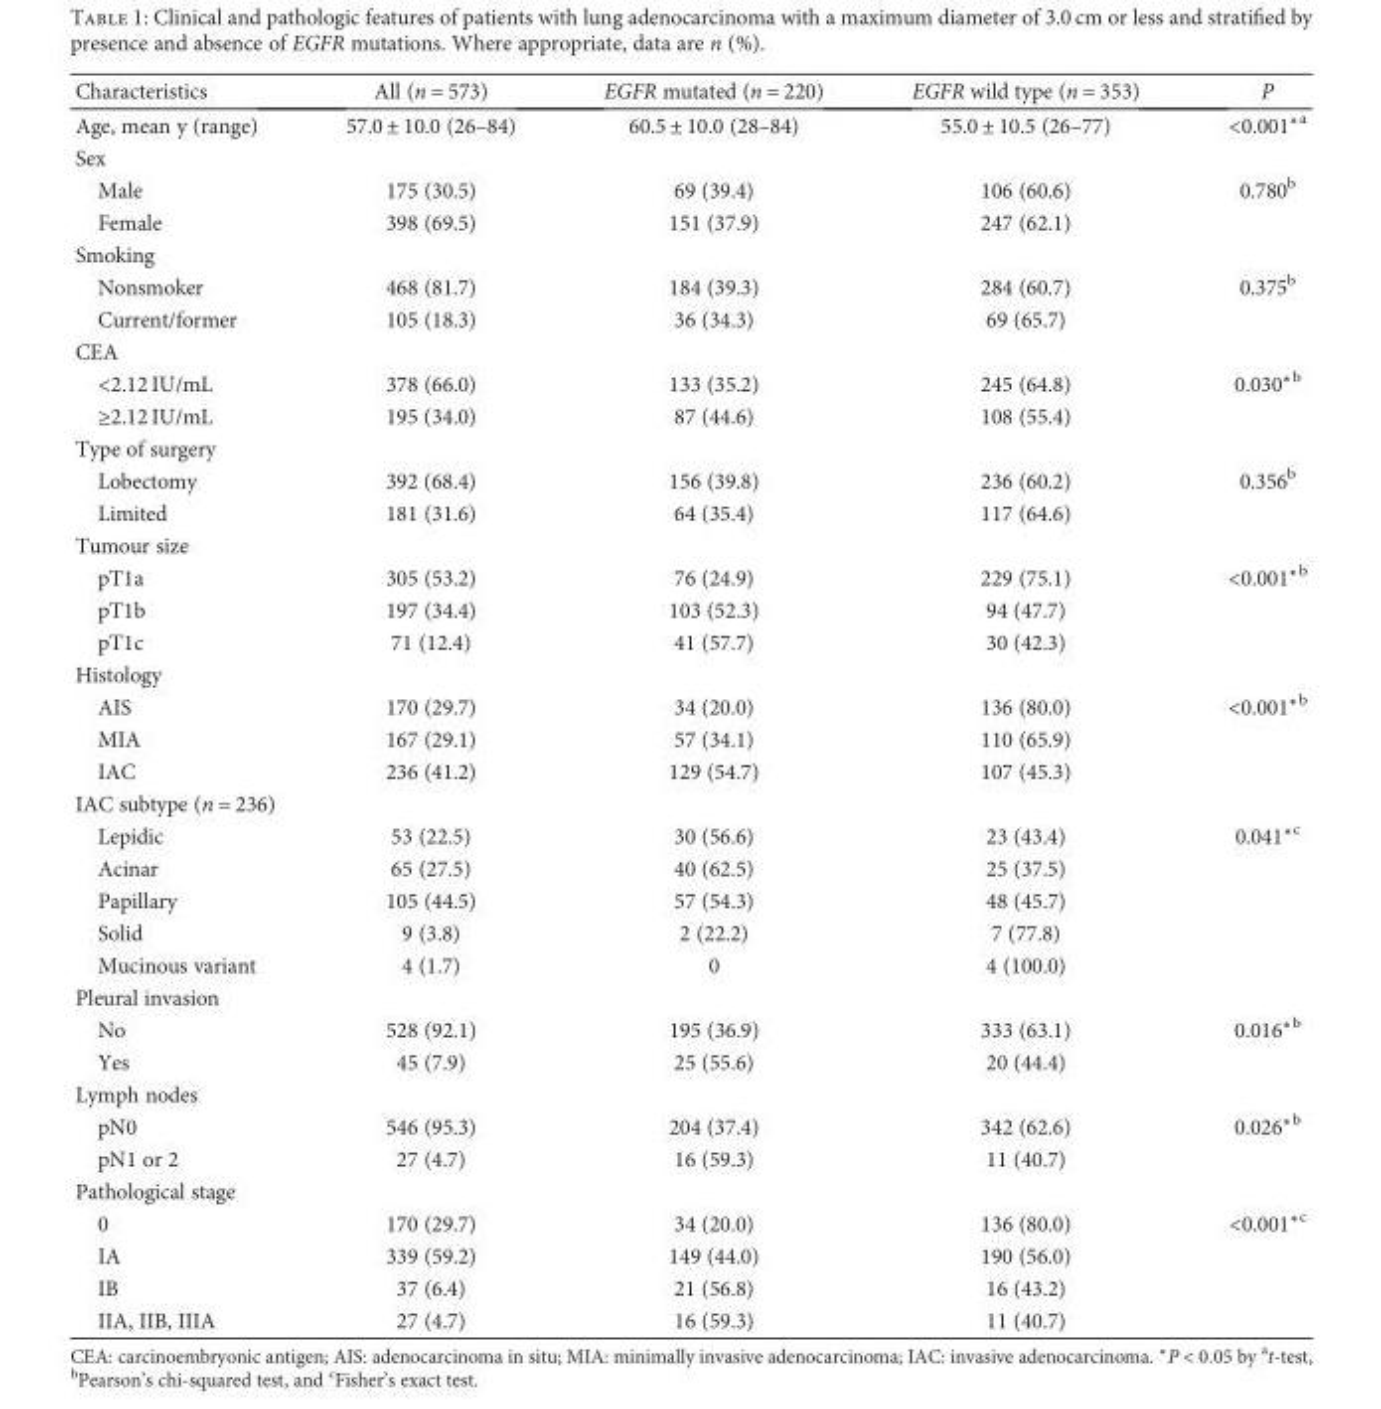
<table><thead><tr><td>Characteristics</td><td>All (n = 573)</td><td>EGFR mutated (n = 220)</td><td>EGFR wild type (n = 353)</td><td>P</td></tr></thead><tbody><tr><td>Age, mean y (range)</td><td>57.0 ± 10.0 (26–84)</td><td>60.5 ± 10.0 (28–84)</td><td>55.0 ± 10.5 (26–77)</td><td>&lt;0.001<sup>∗a</sup></td></tr><tr><td colspan="5">Sex</td></tr><tr><td>Male</td><td>175 (30.5)</td><td>69 (39.4)</td><td>106 (60.6)</td><td>0.780<sup>b</sup></td></tr><tr><td>Female</td><td>398 (69.5)</td><td>151 (37.9)</td><td>247 (62.1)</td><td></td></tr><tr><td colspan="5">Smoking</td></tr><tr><td>Nonsmoker</td><td>468 (81.7)</td><td>184 (39.3)</td><td>284 (60.7)</td><td>0.375<sup>b</sup></td></tr><tr><td>Current/former</td><td>105 (18.3)</td><td>36 (34.3)</td><td>69 (65.7)</td><td></td></tr><tr><td colspan="5">CEA</td></tr><tr><td>&lt;2.12 IU/mL</td><td>378 (66.0)</td><td>133 (35.2)</td><td>245 (64.8)</td><td>0.030<sup>∗b</sup></td></tr><tr><td>≥2.12 IU/mL</td><td>195 (34.0)</td><td>87 (44.6)</td><td>108 (55.4)</td><td></td></tr><tr><td colspan="5">Type of surgery</td></tr><tr><td>Lobectomy</td><td>392 (68.4)</td><td>156 (39.8)</td><td>236 (60.2)</td><td>0.356<sup>b</sup></td></tr><tr><td>Limited</td><td>181 (31.6)</td><td>64 (35.4)</td><td>117 (64.6)</td><td></td></tr><tr><td colspan="5">Tumour size</td></tr><tr><td>pT1a</td><td>305 (53.2)</td><td>76 (24.9)</td><td>229 (75.1)</td><td>&lt;0.001<sup>∗b</sup></td></tr><tr><td>pT1b</td><td>197 (34.4)</td><td>103 (52.3)</td><td>94 (47.7)</td><td></td></tr><tr><td>pT1c</td><td>71 (12.4)</td><td>41 (57.7)</td><td>30 (42.3)</td><td></td></tr><tr><td colspan="5">Histology</td></tr><tr><td>AIS</td><td>170 (29.7)</td><td>34 (20.0)</td><td>136 (80.0)</td><td>&lt;0.001<sup>∗b</sup></td></tr><tr><td>MIA</td><td>167 (29.1)</td><td>57 (34.1)</td><td>110 (65.9)</td><td></td></tr><tr><td>IAC</td><td>236 (41.2)</td><td>129 (54.7)</td><td>107 (45.3)</td><td></td></tr><tr><td colspan="5">IAC subtype (n = 236)</td></tr><tr><td>Lepidic</td><td>53 (22.5)</td><td>30 (56.6)</td><td>23 (43.4)</td><td>0.041<sup>∗c</sup></td></tr><tr><td>Acinar</td><td>65 (27.5)</td><td>40 (62.5)</td><td>25 (37.5)</td><td></td></tr><tr><td>Papillary</td><td>105 (44.5)</td><td>57 (54.3)</td><td>48 (45.7)</td><td></td></tr><tr><td>Solid</td><td>9 (3.8)</td><td>2 (22.2)</td><td>7 (77.8)</td><td></td></tr><tr><td>Mucinous variant</td><td>4 (1.7)</td><td>0</td><td>4 (100.0)</td><td></td></tr><tr><td colspan="5">Pleural invasion</td></tr><tr><td>No</td><td>528 (92.1)</td><td>195 (36.9)</td><td>333 (63.1)</td><td>0.016<sup>∗b</sup></td></tr><tr><td>Yes</td><td>45 (7.9)</td><td>25 (55.6)</td><td>20 (44.4)</td><td></td></tr><tr><td colspan="5">Lymph nodes</td></tr><tr><td>pN0</td><td>546 (95.3)</td><td>204 (37.4)</td><td>342 (62.6)</td><td>0.026<sup>∗b</sup></td></tr><tr><td>pN1 or 2</td><td>27 (4.7)</td><td>16 (59.3)</td><td>11 (40.7)</td><td></td></tr><tr><td colspan="5">Pathological stage</td></tr><tr><td>0</td><td>170 (29.7)</td><td>34 (20.0)</td><td>136 (80.0)</td><td>&lt;0.001<sup>∗c</sup></td></tr><tr><td>IA</td><td>339 (59.2)</td><td>149 (44.0)</td><td>190 (56.0)</td><td></td></tr><tr><td>IB</td><td>37 (6.4)</td><td>21 (56.8)</td><td>16 (43.2)</td><td></td></tr><tr><td>IIA, IIB, IIIA</td><td>27 (4.7)</td><td>16 (59.3)</td><td>11 (40.7)</td><td></td></tr></tbody></table>